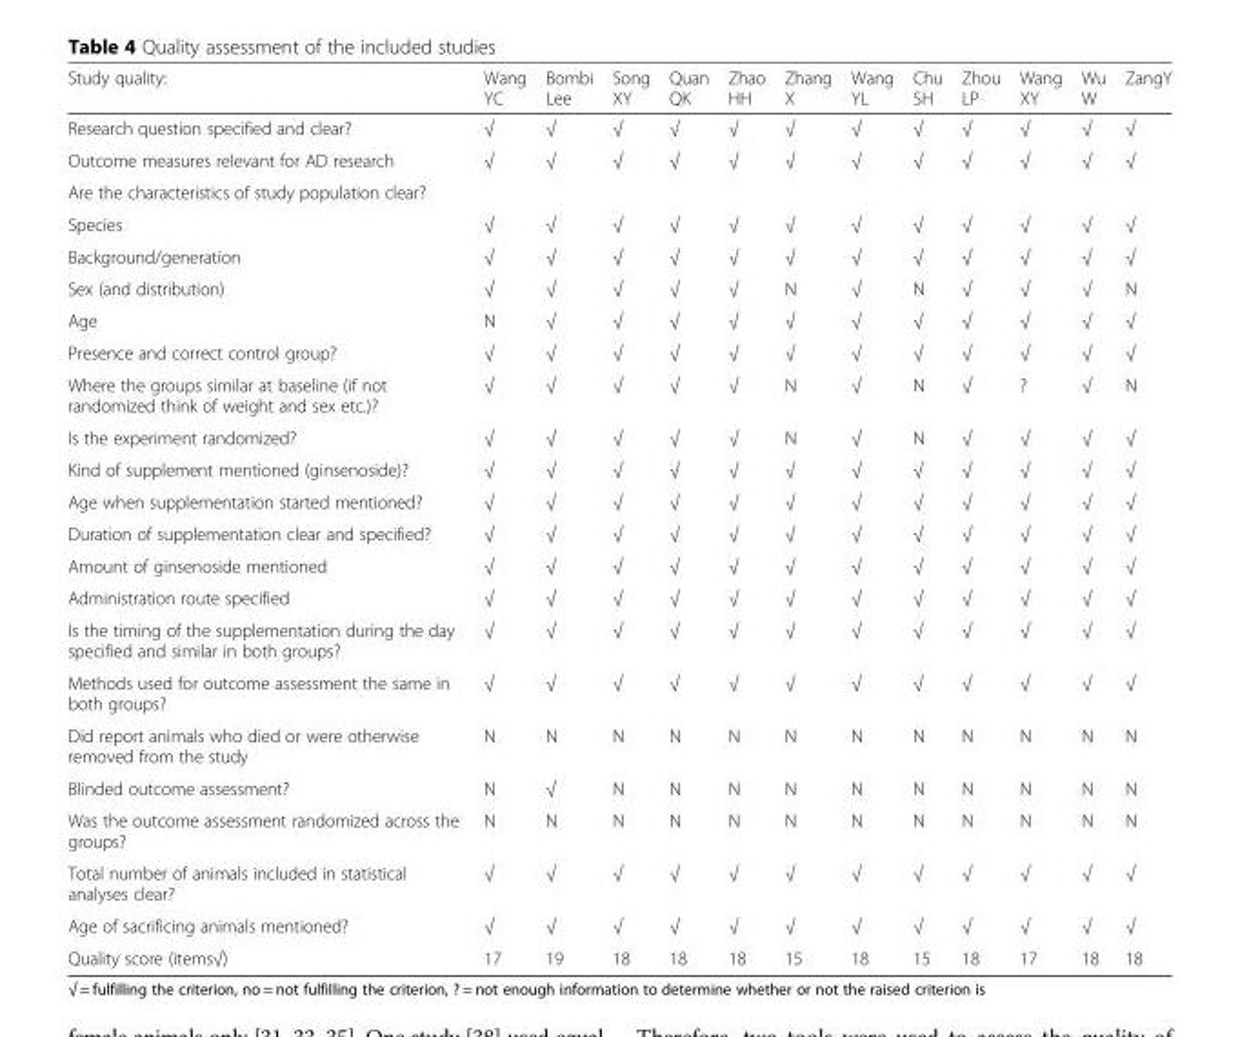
<table><thead><tr><td>Study quality:</td><td>Wang YC</td><td>Bombi Lee</td><td>Song XY</td><td>Quan QK</td><td>Zhao HH</td><td>Zhang X</td><td>Wang YL</td><td>Chu SH</td><td>Zhou LP</td><td>Wang XY</td><td>Wu W</td><td>ZangY</td></tr></thead><tbody><tr><td>Research question specified and clear?</td><td>√</td><td>√</td><td>√</td><td>√</td><td>√</td><td>√</td><td>√</td><td>√</td><td>√</td><td>√</td><td>√</td><td>√</td></tr><tr><td>Outcome measures relevant for AD research</td><td>√</td><td>√</td><td>√</td><td>√</td><td>√</td><td>√</td><td>√</td><td>√</td><td>√</td><td>√</td><td>√</td><td>√</td></tr><tr><td colspan="13">Are the characteristics of study population clear?</td></tr><tr><td>Species</td><td>√</td><td>√</td><td>√</td><td>√</td><td>√</td><td>√</td><td>√</td><td>√</td><td>√</td><td>√</td><td>√</td><td>√</td></tr><tr><td>Background/generation</td><td>√</td><td>√</td><td>√</td><td>√</td><td>√</td><td>√</td><td>√</td><td>√</td><td>√</td><td>√</td><td>√</td><td>√</td></tr><tr><td>Sex (and distribution)</td><td>√</td><td>√</td><td>√</td><td>√</td><td>√</td><td>N</td><td>√</td><td>N</td><td>√</td><td>√</td><td>√</td><td>N</td></tr><tr><td>Age</td><td>N</td><td>√</td><td>√</td><td>√</td><td>√</td><td>√</td><td>√</td><td>√</td><td>√</td><td>√</td><td>√</td><td>√</td></tr><tr><td>Presence and correct control group?</td><td>√</td><td>√</td><td>√</td><td>√</td><td>√</td><td>√</td><td>√</td><td>√</td><td>√</td><td>√</td><td>√</td><td>√</td></tr><tr><td>Where the groups similar at baseline (if not randomized think of weight and sex etc.)?</td><td>√</td><td>√</td><td>√</td><td>√</td><td>√</td><td>N</td><td>√</td><td>N</td><td>√</td><td>?</td><td>√</td><td>N</td></tr><tr><td>Is the experiment randomized?</td><td>√</td><td>√</td><td>√</td><td>√</td><td>√</td><td>N</td><td>√</td><td>N</td><td>√</td><td>√</td><td>√</td><td>√</td></tr><tr><td>Kind of supplement mentioned (ginsenoside)?</td><td>√</td><td>√</td><td>√</td><td>√</td><td>√</td><td>√</td><td>√</td><td>√</td><td>√</td><td>√</td><td>√</td><td>√</td></tr><tr><td>Age when supplementation started mentioned?</td><td>√</td><td>√</td><td>√</td><td>√</td><td>√</td><td>√</td><td>√</td><td>√</td><td>√</td><td>√</td><td>√</td><td>√</td></tr><tr><td>Duration of supplementation clear and specified?</td><td>√</td><td>√</td><td>√</td><td>√</td><td>√</td><td>√</td><td>√</td><td>√</td><td>√</td><td>√</td><td>√</td><td>√</td></tr><tr><td>Amount of ginsenoside mentioned</td><td>√</td><td>√</td><td>√</td><td>√</td><td>√</td><td>√</td><td>√</td><td>√</td><td>√</td><td>√</td><td>√</td><td>√</td></tr><tr><td>Administration route specified</td><td>√</td><td>√</td><td>√</td><td>√</td><td>√</td><td>√</td><td>√</td><td>√</td><td>√</td><td>√</td><td>√</td><td>√</td></tr><tr><td>Is the timing of the supplementation during the day specified and similar in both groups?</td><td>√</td><td>√</td><td>√</td><td>√</td><td>√</td><td>√</td><td>√</td><td>√</td><td>√</td><td>√</td><td>√</td><td>√</td></tr><tr><td>Methods used for outcome assessment the same in both groups?</td><td>√</td><td>√</td><td>√</td><td>√</td><td>√</td><td>√</td><td>√</td><td>√</td><td>√</td><td>√</td><td>√</td><td>√</td></tr><tr><td>Did report animals who died or were otherwise removed from the study</td><td>N</td><td>N</td><td>N</td><td>N</td><td>N</td><td>N</td><td>N</td><td>N</td><td>N</td><td>N</td><td>N</td><td>N</td></tr><tr><td>Blinded outcome assessment?</td><td>N</td><td>√</td><td>N</td><td>N</td><td>N</td><td>N</td><td>N</td><td>N</td><td>N</td><td>N</td><td>N</td><td>N</td></tr><tr><td>Was the outcome assessment randomized across the groups?</td><td>N</td><td>N</td><td>N</td><td>N</td><td>N</td><td>N</td><td>N</td><td>N</td><td>N</td><td>N</td><td>N</td><td>N</td></tr><tr><td>Total number of animals included in statistical analyses clear?</td><td>√</td><td>√</td><td>√</td><td>√</td><td>√</td><td>√</td><td>√</td><td>√</td><td>√</td><td>√</td><td>√</td><td>√</td></tr><tr><td>Age of sacrificing animals mentioned?</td><td>√</td><td>√</td><td>√</td><td>√</td><td>√</td><td>√</td><td>√</td><td>√</td><td>√</td><td>√</td><td>√</td><td>√</td></tr><tr><td>Quality score (items√)</td><td>17</td><td>19</td><td>18</td><td>18</td><td>18</td><td>15</td><td>18</td><td>15</td><td>18</td><td>17</td><td>18</td><td>18</td></tr></tbody></table>